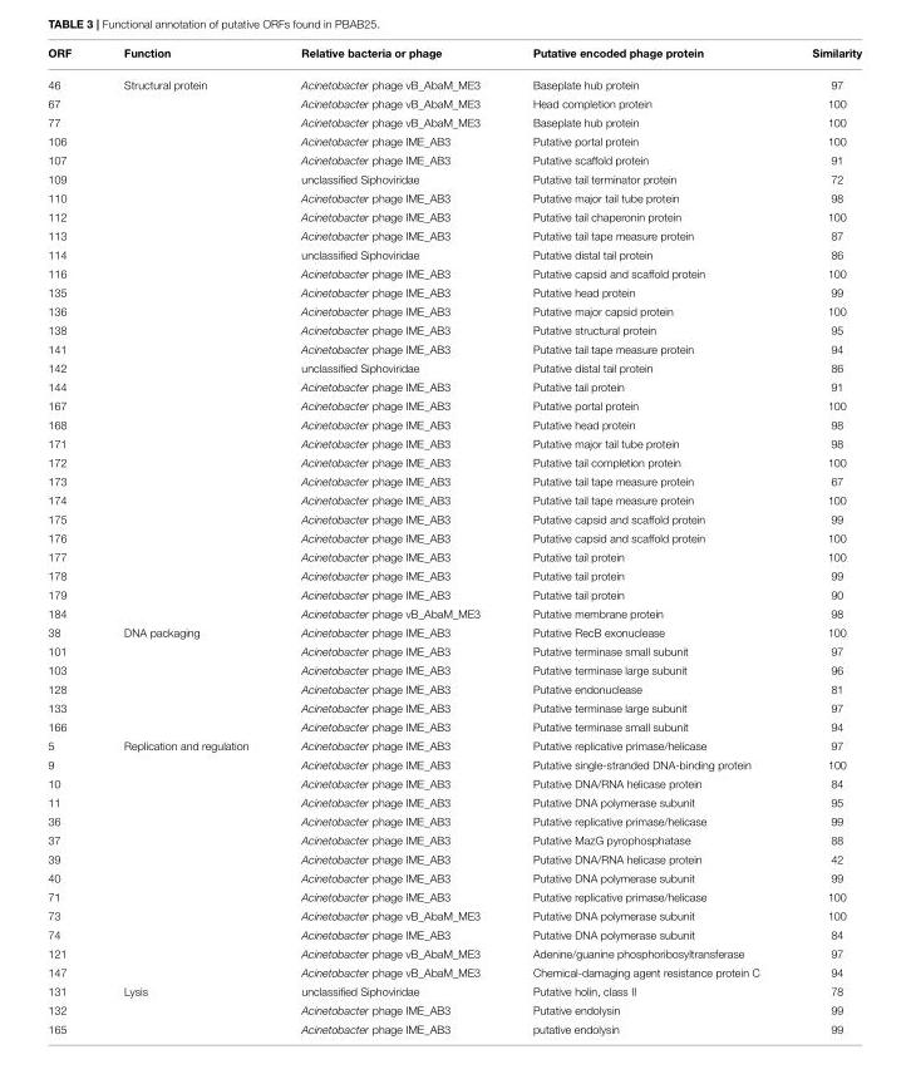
<table><thead><tr><td>ORF</td><td>Function</td><td>Relative bacteria or phage</td><td>Putative encoded phage protein</td><td>Similarity</td></tr></thead><tbody><tr><td>46</td><td>Structural protein</td><td>Acinetobacter phage vB_AbaM_ME3</td><td>Baseplate hub protein</td><td>97</td></tr><tr><td>67</td><td></td><td>Acinetobacter phage vB_AbaM_ME3</td><td>Head completion protein</td><td>100</td></tr><tr><td>77</td><td></td><td>Acinetobacter phage vB_AbaM_ME3</td><td>Baseplate hub protein</td><td>100</td></tr><tr><td>106</td><td></td><td>Acinetobacter phage IME_AB3</td><td>Putative portal protein</td><td>100</td></tr><tr><td>107</td><td></td><td>Acinetobacter phage IME_AB3</td><td>Putative scaffold protein</td><td>91</td></tr><tr><td>109</td><td></td><td>unclassified Siphoviridae</td><td>Putative tail terminator protein</td><td>72</td></tr><tr><td>110</td><td></td><td>Acinetobacter phage IME_AB3</td><td>Putative major tail tube protein</td><td>98</td></tr><tr><td>112</td><td></td><td>Acinetobacter phage IME_AB3</td><td>Putative tail chaperonin protein</td><td>100</td></tr><tr><td>113</td><td></td><td>Acinetobacter phage IME_AB3</td><td>Putative tail tape measure protein</td><td>87</td></tr><tr><td>114</td><td></td><td>unclassified Siphoviridae</td><td>Putative distal tail protein</td><td>86</td></tr><tr><td>116</td><td></td><td>Acinetobacter phage IME_AB3</td><td>Putative capsid and scaffold protein</td><td>100</td></tr><tr><td>135</td><td></td><td>Acinetobacter phage IME_AB3</td><td>Putative head protein</td><td>99</td></tr><tr><td>136</td><td></td><td>Acinetobacter phage IME_AB3</td><td>Putative major capsid protein</td><td>100</td></tr><tr><td>138</td><td></td><td>Acinetobacter phage IME_AB3</td><td>Putative structural protein</td><td>95</td></tr><tr><td>141</td><td></td><td>Acinetobacter phage IME_AB3</td><td>Putative tail tape measure protein</td><td>94</td></tr><tr><td>142</td><td></td><td>unclassified Siphoviridae</td><td>Putative distal tail protein</td><td>86</td></tr><tr><td>144</td><td></td><td>Acinetobacter phage IME_AB3</td><td>Putative tail protein</td><td>91</td></tr><tr><td>167</td><td></td><td>Acinetobacter phage IME_AB3</td><td>Putative portal protein</td><td>100</td></tr><tr><td>168</td><td></td><td>Acinetobacter phage IME_AB3</td><td>Putative head protein</td><td>98</td></tr><tr><td>171</td><td></td><td>Acinetobacter phage IME_AB3</td><td>Putative major tail tube protein</td><td>98</td></tr><tr><td>172</td><td></td><td>Acinetobacter phage IME_AB3</td><td>Putative tail completion protein</td><td>100</td></tr><tr><td>173</td><td></td><td>Acinetobacter phage IME_AB3</td><td>Putative tail tape measure protein</td><td>67</td></tr><tr><td>174</td><td></td><td>Acinetobacter phage IME_AB3</td><td>Putative tail tape measure protein</td><td>100</td></tr><tr><td>175</td><td></td><td>Acinetobacter phage IME_AB3</td><td>Putative capsid and scaffold protein</td><td>99</td></tr><tr><td>176</td><td></td><td>Acinetobacter phage IME_AB3</td><td>Putative capsid and scaffold protein</td><td>100</td></tr><tr><td>177</td><td></td><td>Acinetobacter phage IME_AB3</td><td>Putative tail protein</td><td>100</td></tr><tr><td>178</td><td></td><td>Acinetobacter phage IME_AB3</td><td>Putative tail protein</td><td>99</td></tr><tr><td>179</td><td></td><td>Acinetobacter phage IME_AB3</td><td>Putative tail protein</td><td>90</td></tr><tr><td>184</td><td></td><td>Acinetobacter phage vB_AbaM_ME3</td><td>Putative membrane protein</td><td>98</td></tr><tr><td>38</td><td>DNA packaging</td><td>Acinetobacter phage IME_AB3</td><td>Putative RecB exonuclease</td><td>100</td></tr><tr><td>101</td><td></td><td>Acinetobacter phage IME_AB3</td><td>Putative terminase small subunit</td><td>97</td></tr><tr><td>103</td><td></td><td>Acinetobacter phage IME_AB3</td><td>Putative terminase large subunit</td><td>96</td></tr><tr><td>128</td><td></td><td>Acinetobacter phage IME_AB3</td><td>Putative endonuclease</td><td>81</td></tr><tr><td>133</td><td></td><td>Acinetobacter phage IME_AB3</td><td>Putative terminase large subunit</td><td>97</td></tr><tr><td>166</td><td></td><td>Acinetobacter phage IME_AB3</td><td>Putative terminase small subunit</td><td>94</td></tr><tr><td>5</td><td>Replication and regulation</td><td>Acinetobacter phage IME_AB3</td><td>Putative replicative primase/helicase</td><td>97</td></tr><tr><td>9</td><td></td><td>Acinetobacter phage IME_AB3</td><td>Putative single-stranded DNA-binding protein</td><td>100</td></tr><tr><td>10</td><td></td><td>Acinetobacter phage IME_AB3</td><td>Putative DNA/RNA helicase protein</td><td>84</td></tr><tr><td>11</td><td></td><td>Acinetobacter phage IME_AB3</td><td>Putative DNA polymerase subunit</td><td>95</td></tr><tr><td>36</td><td></td><td>Acinetobacter phage IME_AB3</td><td>Putative replicative primase/helicase</td><td>99</td></tr><tr><td>37</td><td></td><td>Acinetobacter phage IME_AB3</td><td>Putative MazG pyrophosphatase</td><td>88</td></tr><tr><td>39</td><td></td><td>Acinetobacter phage IME_AB3</td><td>Putative DNA/RNA helicase protein</td><td>42</td></tr><tr><td>40</td><td></td><td>Acinetobacter phage IME_AB3</td><td>Putative DNA polymerase subunit</td><td>99</td></tr><tr><td>71</td><td></td><td>Acinetobacter phage IME_AB3</td><td>Putative replicative primase/helicase</td><td>100</td></tr><tr><td>73</td><td></td><td>Acinetobacter phage vB_AbaM_ME3</td><td>Putative DNA polymerase subunit</td><td>100</td></tr><tr><td>74</td><td></td><td>Acinetobacter phage IME_AB3</td><td>Putative DNA polymerase subunit</td><td>84</td></tr><tr><td>121</td><td></td><td>Acinetobacter phage vB_AbaM_ME3</td><td>Adenine/guanine phosphoribosyltransferase</td><td>97</td></tr><tr><td>147</td><td></td><td>Acinetobacter phage vB_AbaM_ME3</td><td>Chemical-damaging agent resistance protein C</td><td>94</td></tr><tr><td>131</td><td>Lysis</td><td>unclassified Siphoviridae</td><td>Putative holin, class II</td><td>78</td></tr><tr><td>132</td><td></td><td>Acinetobacter phage IME_AB3</td><td>Putative endolysin</td><td>99</td></tr><tr><td>165</td><td></td><td>Acinetobacter phage IME_AB3</td><td>putative endolysin</td><td>99</td></tr></tbody></table>